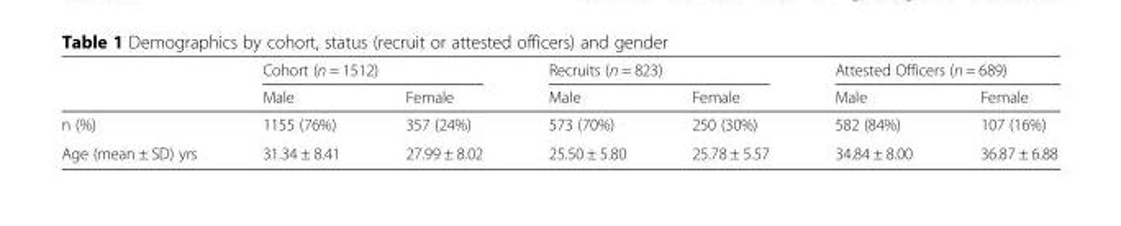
<table><thead><tr><td rowspan="2"></td><td colspan="2">Cohort (n = 1512)</td><td colspan="2">Recruits (n = 823)</td><td colspan="2">Attested Officers (n = 689)</td></tr><tr><td>Male</td><td>Female</td><td>Male</td><td>Female</td><td>Male</td><td>Female</td></tr></thead><tbody><tr><td>n (%)</td><td>1155 (76%)</td><td>357 (24%)</td><td>573 (70%)</td><td>250 (30%)</td><td>582 (84%)</td><td>107 (16%)</td></tr><tr><td>Age (mean ± SD) yrs</td><td>31.34 ± 8.41</td><td>27.99 ± 8.02</td><td>25.50 ± 5.80</td><td>25.78 ± 5.57</td><td>34.84 ± 8.00</td><td>36.87 ± 6.88</td></tr></tbody></table>